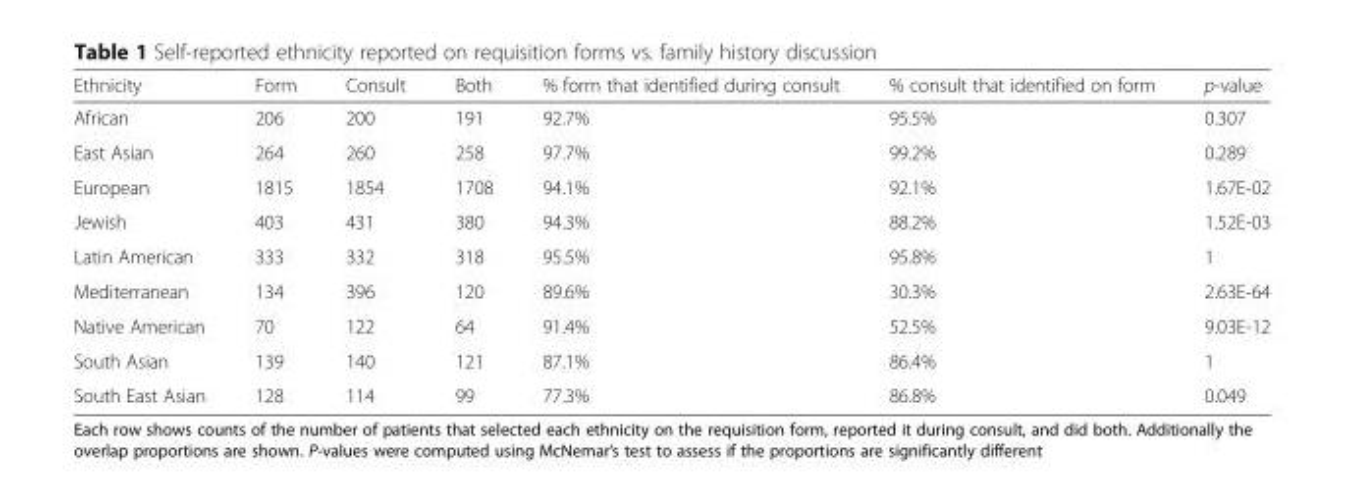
<table><thead><tr><td>Ethnicity</td><td>Form</td><td>Consult</td><td>Both</td><td>% form that identified during consult</td><td>% consult that identified on form</td><td>p-value</td></tr></thead><tbody><tr><td>African</td><td>206</td><td>200</td><td>191</td><td>92.7%</td><td>95.5%</td><td>0.307</td></tr><tr><td>East Asian</td><td>264</td><td>260</td><td>258</td><td>97.7%</td><td>99.2%</td><td>0.289</td></tr><tr><td>European</td><td>1815</td><td>1854</td><td>1708</td><td>94.1%</td><td>92.1%</td><td>1.67E-02</td></tr><tr><td>Jewish</td><td>403</td><td>431</td><td>380</td><td>94.3%</td><td>88.2%</td><td>1.52E-03</td></tr><tr><td>Latin American</td><td>333</td><td>332</td><td>318</td><td>95.5%</td><td>95.8%</td><td>1</td></tr><tr><td>Mediterranean</td><td>134</td><td>396</td><td>120</td><td>89.6%</td><td>30.3%</td><td>2.63E-64</td></tr><tr><td>Native American</td><td>70</td><td>122</td><td>64</td><td>91.4%</td><td>52.5%</td><td>9.03E-12</td></tr><tr><td>South Asian</td><td>139</td><td>140</td><td>121</td><td>87.1%</td><td>86.4%</td><td>1</td></tr><tr><td>South East Asian</td><td>128</td><td>114</td><td>99</td><td>77.3%</td><td>86.8%</td><td>0.049</td></tr></tbody></table>